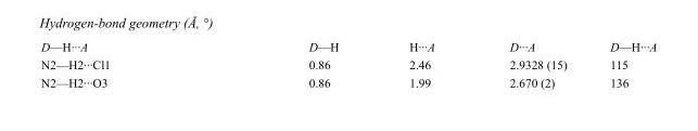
<table><tbody><tr><td>D—H···A</td><td>D—H</td><td>H···A</td><td>D···A</td><td>D—H···A</td></tr><tr><td>N2—H2···Cl1</td><td>0.86</td><td>2.46</td><td>2.9328 (15)</td><td>115</td></tr><tr><td>N2—H2···O3</td><td>0.86</td><td>1.99</td><td>2.670 (2)</td><td>136</td></tr></tbody></table>